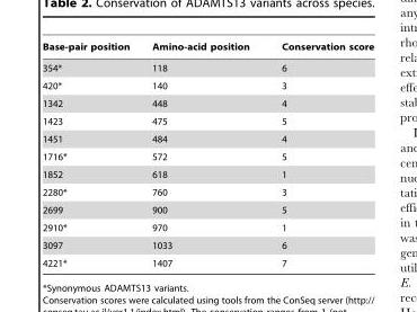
<table><thead><tr><td>Base-pair position</td><td>Amino-acid position</td><td>Conservation score</td></tr></thead><tbody><tr><td>354*</td><td>118</td><td>6</td></tr><tr><td>420*</td><td>140</td><td>3</td></tr><tr><td>1342</td><td>448</td><td>4</td></tr><tr><td>1423</td><td>475</td><td>5</td></tr><tr><td>1451</td><td>484</td><td>4</td></tr><tr><td>1716*</td><td>572</td><td>5</td></tr><tr><td>1852</td><td>618</td><td>1</td></tr><tr><td>2280*</td><td>760</td><td>3</td></tr><tr><td>2699</td><td>900</td><td>5</td></tr><tr><td>2910*</td><td>970</td><td>1</td></tr><tr><td>3097</td><td>1033</td><td>6</td></tr><tr><td>4221*</td><td>1407</td><td>7</td></tr></tbody></table>